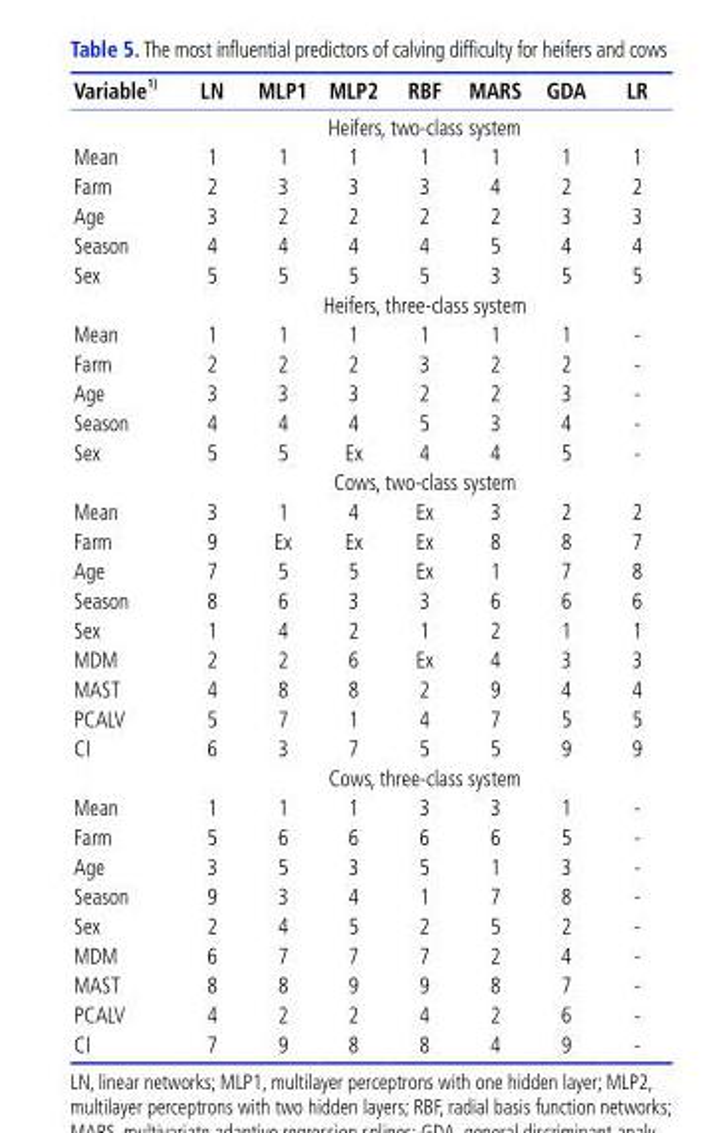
<table><thead><tr><td>Variable 1)</td><td>LN</td><td>MLP1</td><td>MLP2</td><td>RBF</td><td>MARS</td><td>GDA</td><td>LR</td></tr></thead><tbody><tr><td></td><td colspan="7">Heifers, two-class system</td></tr><tr><td>Mean</td><td>1</td><td>1</td><td>1</td><td>1</td><td>1</td><td>1</td><td>1</td></tr><tr><td>Farm</td><td>2</td><td>3</td><td>3</td><td>3</td><td>4</td><td>2</td><td>2</td></tr><tr><td>Age</td><td>3</td><td>2</td><td>2</td><td>2</td><td>2</td><td>3</td><td>3</td></tr><tr><td>Season</td><td>4</td><td>4</td><td>4</td><td>4</td><td>5</td><td>4</td><td>4</td></tr><tr><td rowspan="2">Sex</td><td>5</td><td>5</td><td>5</td><td>5</td><td>3</td><td>5</td><td>5</td></tr><tr><td colspan="7">Heifers, three-class system</td></tr><tr><td>Mean</td><td>1</td><td>1</td><td>1</td><td>1</td><td>1</td><td>1</td><td>-</td></tr><tr><td>Farm</td><td>2</td><td>2</td><td>2</td><td>3</td><td>2</td><td>2</td><td>-</td></tr><tr><td>Age</td><td>3</td><td>3</td><td>3</td><td>2</td><td>2</td><td>3</td><td>-</td></tr><tr><td>Season</td><td>4</td><td>4</td><td>4</td><td>5</td><td>3</td><td>4</td><td>-</td></tr><tr><td rowspan="2">Sex</td><td>5</td><td>5</td><td>Ex</td><td>4</td><td>4</td><td>5</td><td>-</td></tr><tr><td colspan="7">Cows, two-class system</td></tr><tr><td>Mean</td><td>3</td><td>1</td><td>4</td><td>Ex</td><td>3</td><td>2</td><td>2</td></tr><tr><td>Farm</td><td>9</td><td>Ex</td><td>Ex</td><td>Ex</td><td>8</td><td>8</td><td>7</td></tr><tr><td>Age</td><td>7</td><td>5</td><td>5</td><td>Ex</td><td>1</td><td>7</td><td>8</td></tr><tr><td>Season</td><td>8</td><td>6</td><td>3</td><td>3</td><td>6</td><td>6</td><td>6</td></tr><tr><td>Sex</td><td>1</td><td>4</td><td>2</td><td>1</td><td>2</td><td>1</td><td>1</td></tr><tr><td>MDM</td><td>2</td><td>2</td><td>6</td><td>Ex</td><td>4</td><td>3</td><td>3</td></tr><tr><td>MAST</td><td>4</td><td>8</td><td>8</td><td>2</td><td>9</td><td>4</td><td>4</td></tr><tr><td>PCALV</td><td>5</td><td>7</td><td>1</td><td>4</td><td>7</td><td>5</td><td>5</td></tr><tr><td rowspan="2">CI</td><td>6</td><td>3</td><td>7</td><td>5</td><td>5</td><td>9</td><td>9</td></tr><tr><td colspan="7">Cows, three-class system</td></tr><tr><td>Mean</td><td>1</td><td>1</td><td>1</td><td>3</td><td>3</td><td>1</td><td>-</td></tr><tr><td>Farm</td><td>5</td><td>6</td><td>6</td><td>6</td><td>6</td><td>5</td><td>-</td></tr><tr><td>Age</td><td>3</td><td>5</td><td>3</td><td>5</td><td>1</td><td>3</td><td>-</td></tr><tr><td>Season</td><td>9</td><td>3</td><td>4</td><td>1</td><td>7</td><td>8</td><td>-</td></tr><tr><td>Sex</td><td>2</td><td>4</td><td>5</td><td>2</td><td>5</td><td>2</td><td>-</td></tr><tr><td>MDM</td><td>6</td><td>7</td><td>7</td><td>7</td><td>2</td><td>4</td><td>-</td></tr><tr><td>MAST</td><td>8</td><td>8</td><td>9</td><td>9</td><td>8</td><td>7</td><td>-</td></tr><tr><td>PCALV</td><td>4</td><td>2</td><td>2</td><td>4</td><td>2</td><td>6</td><td>-</td></tr><tr><td>CI</td><td>7</td><td>9</td><td>8</td><td>8</td><td>4</td><td>9</td><td>-</td></tr></tbody></table>